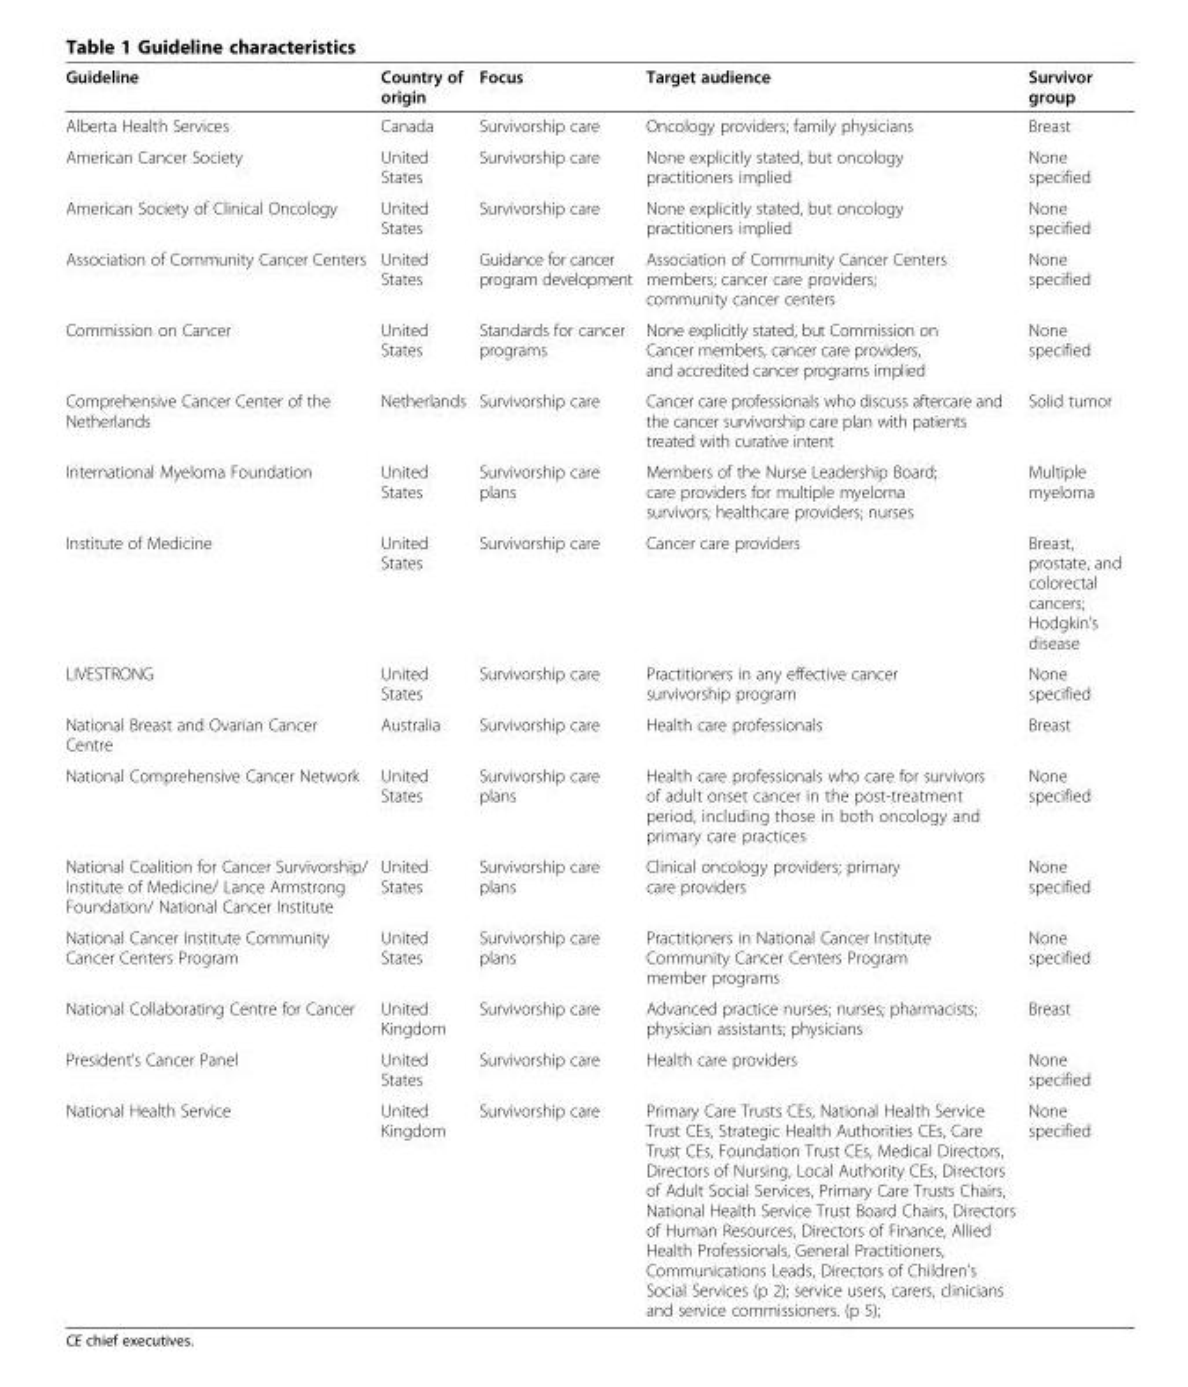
<table><thead><tr><td>Guideline</td><td>Country of origin</td><td>Focus</td><td>Target audience</td><td>Survivor group</td></tr></thead><tbody><tr><td>Alberta Health Services</td><td>Canada</td><td>Survivorship care</td><td>Oncology providers; family physicians</td><td>Breast</td></tr><tr><td>American Cancer Society</td><td>United States</td><td>Survivorship care</td><td>None explicitly stated, but oncology practitioners implied</td><td>None specified</td></tr><tr><td>American Society of Clinical Oncology</td><td>United States</td><td>Survivorship care</td><td>None explicitly stated, but oncology practitioners implied</td><td>None specified</td></tr><tr><td>Association of Community Cancer Centers</td><td>United States</td><td>Guidance for cancer program development</td><td>Association of Community Cancer Centers members; cancer care providers; community cancer centers</td><td>None specified</td></tr><tr><td>Commission on Cancer</td><td>United States</td><td>Standards for cancer programs</td><td>None explicitly stated, but Commission on Cancer members, cancer care providers, and accredited cancer programs implied</td><td>None specified</td></tr><tr><td>Comprehensive Cancer Center of the Netherlands</td><td>Netherlands</td><td>Survivorship care</td><td>Cancer care professionals who discuss aftercare and the cancer survivorship care plan with patients treated with curative intent</td><td>Solid tumor</td></tr><tr><td>International Myeloma Foundation</td><td>United States</td><td>Survivorship care plans</td><td>Members of the Nurse Leadership Board; care providers for multiple myeloma survivors; healthcare providers; nurses</td><td>Multiple myeloma</td></tr><tr><td>Institute of Medicine</td><td>United States</td><td>Survivorship care</td><td>Cancer care providers</td><td>Breast, prostate, and colorectal cancers; Hodgkin’s disease</td></tr><tr><td>LIVESTRONG</td><td>United States</td><td>Survivorship care</td><td>Practitioners in any effective cancer survivorship program</td><td>None specified</td></tr><tr><td>National Breast and Ovarian Cancer Centre</td><td>Australia</td><td>Survivorship care</td><td>Health care professionals</td><td>Breast</td></tr><tr><td>National Comprehensive Cancer Network</td><td>United States</td><td>Survivorship care plans</td><td>Health care professionals who care for survivors of adult onset cancer in the post-treatment period, including those in both oncology and primary care practices</td><td>None specified</td></tr><tr><td>National Coalition for Cancer Survivorship/ Institute of Medicine/ Lance Armstrong Foundation/ National Cancer Institute</td><td>United States</td><td>Survivorship care plans</td><td>Clinical oncology providers; primary care providers</td><td>None specified</td></tr><tr><td>National Cancer Institute Community Cancer Centers Program</td><td>United States</td><td>Survivorship care plans</td><td>Practitioners in National Cancer Institute Community Cancer Centers Program member programs</td><td>None specified</td></tr><tr><td>National Collaborating Centre for Cancer</td><td>United Kingdom</td><td>Survivorship care</td><td>Advanced practice nurses; nurses; pharmacists; physician assistants; physicians</td><td>Breast</td></tr><tr><td>President’s Cancer Panel</td><td>United States</td><td>Survivorship care</td><td>Health care providers</td><td>None specified</td></tr><tr><td>National Health Service</td><td>United Kingdom</td><td>Survivorship care</td><td>Primary Care Trusts CEs, National Health Service Trust CEs, Strategic Health Authorities CEs, Care Trust CEs, Foundation Trust CEs, Medical Directors, Directors of Nursing, Local Authority CEs, Directors of Adult Social Services, Primary Care Trusts Chairs, National Health Service Trust Board Chairs, Directors of Human Resources, Directors of Finance, Allied Health Professionals, General Practitioners, Communications Leads, Directors of Children’s Social Services (p 2); service users, carers, clinicians and service commissioners. (p 5);</td><td>None specified</td></tr></tbody></table>